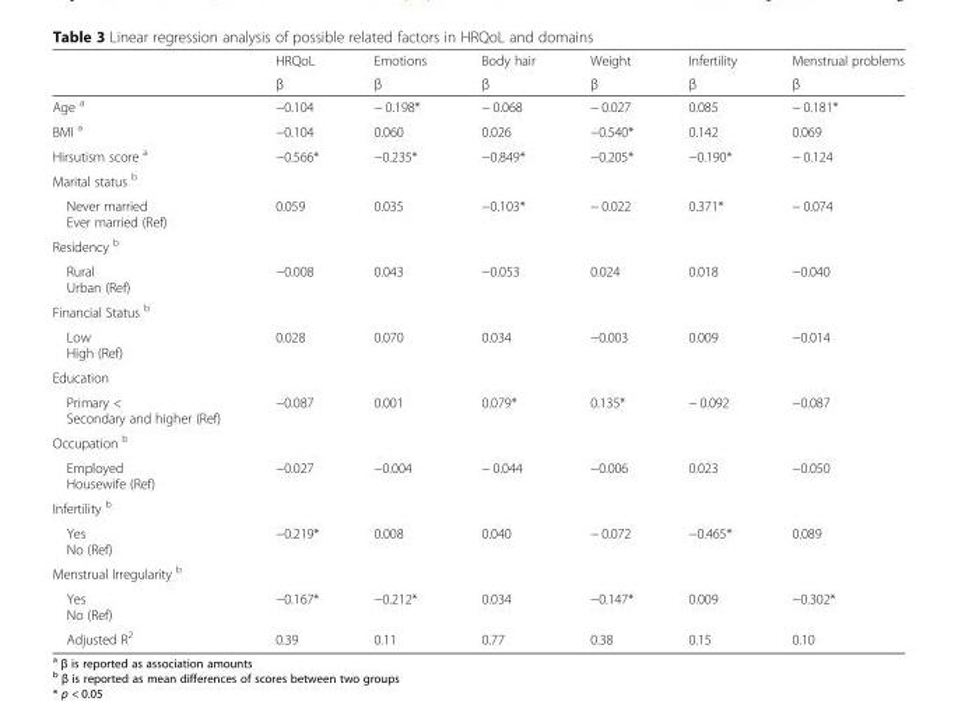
<table><thead><tr><td rowspan="2"></td><td rowspan="2">HRQoL β</td><td rowspan="2">Emotions β</td><td rowspan="2">Body hair β</td><td rowspan="2">Weight β</td><td rowspan="2">Infertility β</td><td rowspan="2">Menstrual problems β</td></tr><tr></tr></thead><tbody><tr><td>Age <sup>a</sup></td><td>−0.104</td><td>− 0.198*</td><td>− 0.068</td><td>− 0.027</td><td>0.085</td><td>− 0.181*</td></tr><tr><td>BMI <sup>a</sup></td><td>−0.104</td><td>0.060</td><td>0.026</td><td>−0.540*</td><td>0.142</td><td>0.069</td></tr><tr><td>Hirsutism score <sup>a</sup></td><td>−0.566*</td><td>−0.235*</td><td>−0.849*</td><td>−0.205*</td><td>−0.190*</td><td>− 0.124</td></tr><tr><td colspan="7">Marital status <sup>b</sup></td></tr><tr><td>Never married Ever married (Ref)</td><td>0.059</td><td>0.035</td><td>−0.103*</td><td>− 0.022</td><td>0.371*</td><td>− 0.074</td></tr><tr><td colspan="7">Residency <sup>b</sup></td></tr><tr><td>Rural Urban (Ref)</td><td>−0.008</td><td>0.043</td><td>−0.053</td><td>0.024</td><td>0.018</td><td>−0.040</td></tr><tr><td colspan="7">Financial Status <sup>b</sup></td></tr><tr><td>Low High (Ref)</td><td>0.028</td><td>0.070</td><td>0.034</td><td>−0.003</td><td>0.009</td><td>−0.014</td></tr><tr><td colspan="7">Education</td></tr><tr><td>Primary &lt; Secondary and higher (Ref)</td><td>−0.087</td><td>0.001</td><td>0.079*</td><td>0.135*</td><td>− 0.092</td><td>−0.087</td></tr><tr><td colspan="7">Occupation <sup>b</sup></td></tr><tr><td>Employed Housewife (Ref)</td><td>−0.027</td><td>−0.004</td><td>− 0.044</td><td>−0.006</td><td>0.023</td><td>−0.050</td></tr><tr><td colspan="7">Infertility <sup>b</sup></td></tr><tr><td>Yes No (Ref)</td><td>−0.219*</td><td>0.008</td><td>0.040</td><td>− 0.072</td><td>−0.465*</td><td>0.089</td></tr><tr><td colspan="7">Menstrual Irregularity <sup>b</sup></td></tr><tr><td>Yes No (Ref)</td><td>−0.167*</td><td>−0.212*</td><td>0.034</td><td>−0.147*</td><td>0.009</td><td>−0.302*</td></tr><tr><td>Adjusted R<sup>2</sup></td><td>0.39</td><td>0.11</td><td>0.77</td><td>0.38</td><td>0.15</td><td>0.10</td></tr></tbody></table>